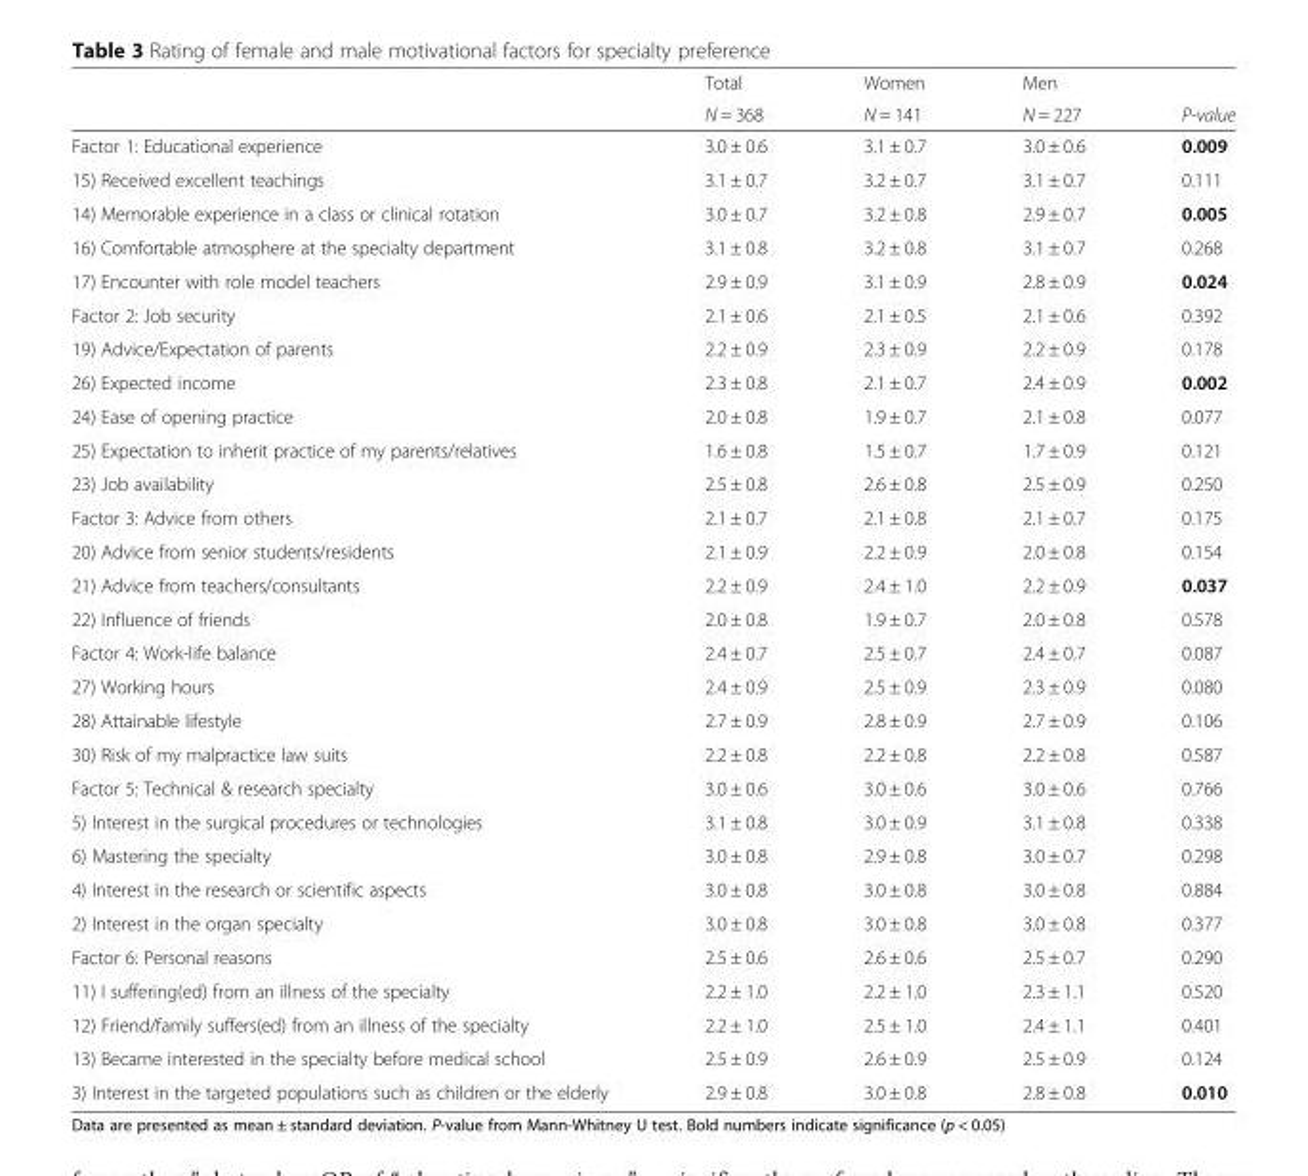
<table><thead><tr><td rowspan="2"></td><td rowspan="2">Total N = 368</td><td rowspan="2">Women N = 141</td><td rowspan="2">Men N = 227</td><td rowspan="2">P-value</td></tr><tr></tr></thead><tbody><tr><td>Factor 1: Educational experience</td><td>3.0 ± 0.6</td><td>3.1 ± 0.7</td><td>3.0 ± 0.6</td><td>0.009</td></tr><tr><td>15) Received excellent teachings</td><td>3.1 ± 0.7</td><td>3.2 ± 0.7</td><td>3.1 ± 0.7</td><td>0.111</td></tr><tr><td>14) Memorable experience in a class or clinical rotation</td><td>3.0 ± 0.7</td><td>3.2 ± 0.8</td><td>2.9 ± 0.7</td><td>0.005</td></tr><tr><td>16) Comfortable atmosphere at the specialty department</td><td>3.1 ± 0.8</td><td>3.2 ± 0.8</td><td>3.1 ± 0.7</td><td>0.268</td></tr><tr><td>17) Encounter with role model teachers</td><td>2.9 ± 0.9</td><td>3.1 ± 0.9</td><td>2.8 ± 0.9</td><td>0.024</td></tr><tr><td>Factor 2: Job security</td><td>2.1 ± 0.6</td><td>2.1 ± 0.5</td><td>2.1 ± 0.6</td><td>0.392</td></tr><tr><td>19) Advice/Expectation of parents</td><td>2.2 ± 0.9</td><td>2.3 ± 0.9</td><td>2.2 ± 0.9</td><td>0.178</td></tr><tr><td>26) Expected income</td><td>2.3 ± 0.8</td><td>2.1 ± 0.7</td><td>2.4 ± 0.9</td><td>0.002</td></tr><tr><td>24) Ease of opening practice</td><td>2.0 ± 0.8</td><td>1.9 ± 0.7</td><td>2.1 ± 0.8</td><td>0.077</td></tr><tr><td>25) Expectation to inherit practice of my parents/relatives</td><td>1.6 ± 0.8</td><td>1.5 ± 0.7</td><td>1.7 ± 0.9</td><td>0.121</td></tr><tr><td>23) Job availability</td><td>2.5 ± 0.8</td><td>2.6 ± 0.8</td><td>2.5 ± 0.9</td><td>0.250</td></tr><tr><td>Factor 3: Advice from others</td><td>2.1 ± 0.7</td><td>2.1 ± 0.8</td><td>2.1 ± 0.7</td><td>0.175</td></tr><tr><td>20) Advice from senior students/residents</td><td>2.1 ± 0.9</td><td>2.2 ± 0.9</td><td>2.0 ± 0.8</td><td>0.154</td></tr><tr><td>21) Advice from teachers/consultants</td><td>2.2 ± 0.9</td><td>2.4 ± 1.0</td><td>2.2 ± 0.9</td><td>0.037</td></tr><tr><td>22) Influence of friends</td><td>2.0 ± 0.8</td><td>1.9 ± 0.7</td><td>2.0 ± 0.8</td><td>0.578</td></tr><tr><td>Factor 4: Work-life balance</td><td>2.4 ± 0.7</td><td>2.5 ± 0.7</td><td>2.4 ± 0.7</td><td>0.087</td></tr><tr><td>27) Working hours</td><td>2.4 ± 0.9</td><td>2.5 ± 0.9</td><td>2.3 ± 0.9</td><td>0.080</td></tr><tr><td>28) Attainable lifestyle</td><td>2.7 ± 0.9</td><td>2.8 ± 0.9</td><td>2.7 ± 0.9</td><td>0.106</td></tr><tr><td>30) Risk of my malpractice law suits</td><td>2.2 ± 0.8</td><td>2.2 ± 0.8</td><td>2.2 ± 0.8</td><td>0.587</td></tr><tr><td>Factor 5: Technical &amp; research specialty</td><td>3.0 ± 0.6</td><td>3.0 ± 0.6</td><td>3.0 ± 0.6</td><td>0.766</td></tr><tr><td>5) Interest in the surgical procedures or technologies</td><td>3.1 ± 0.8</td><td>3.0 ± 0.9</td><td>3.1 ± 0.8</td><td>0.338</td></tr><tr><td>6) Mastering the specialty</td><td>3.0 ± 0.8</td><td>2.9 ± 0.8</td><td>3.0 ± 0.7</td><td>0.298</td></tr><tr><td>4) Interest in the research or scientific aspects</td><td>3.0 ± 0.8</td><td>3.0 ± 0.8</td><td>3.0 ± 0.8</td><td>0.884</td></tr><tr><td>2) Interest in the organ specialty</td><td>3.0 ± 0.8</td><td>3.0 ± 0.8</td><td>3.0 ± 0.8</td><td>0.377</td></tr><tr><td>Factor 6: Personal reasons</td><td>2.5 ± 0.6</td><td>2.6 ± 0.6</td><td>2.5 ± 0.7</td><td>0.290</td></tr><tr><td>11) I suffering(ed) from an illness of the specialty</td><td>2.2 ± 1.0</td><td>2.2 ± 1.0</td><td>2.3 ± 1.1</td><td>0.520</td></tr><tr><td>12) Friend/family suffers(ed) from an illness of the specialty</td><td>2.2 ± 1.0</td><td>2.5 ± 1.0</td><td>2.4 ± 1.1</td><td>0.401</td></tr><tr><td>13) Became interested in the specialty before medical school</td><td>2.5 ± 0.9</td><td>2.6 ± 0.9</td><td>2.5 ± 0.9</td><td>0.124</td></tr><tr><td>3) Interest in the targeted populations such as children or the elderly</td><td>2.9 ± 0.8</td><td>3.0 ± 0.8</td><td>2.8 ± 0.8</td><td>0.010</td></tr></tbody></table>